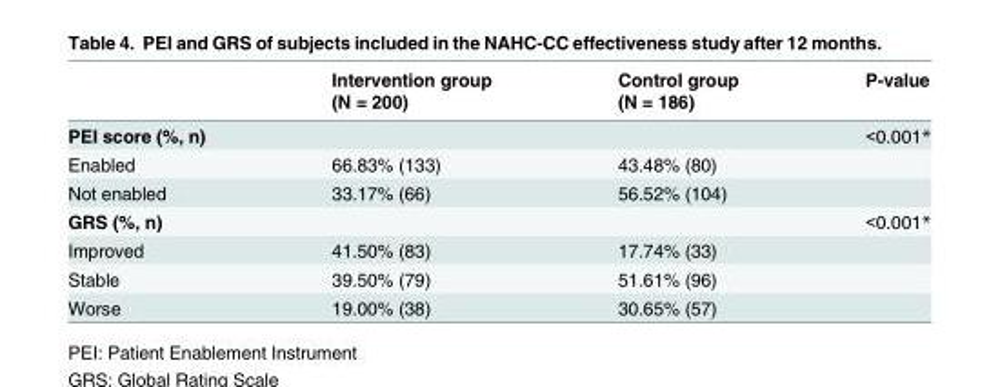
<table><thead><tr><td rowspan="2"></td><td rowspan="2">Intervention group (N = 200)</td><td rowspan="2">Control group (N = 186)</td><td rowspan="2">P-value</td></tr><tr></tr></thead><tbody><tr><td>PEI score (%, n)</td><td></td><td></td><td>&lt;0.001*</td></tr><tr><td>Enabled</td><td>66.83% (133)</td><td>43.48% (80)</td><td></td></tr><tr><td>Not enabled</td><td>33.17% (66)</td><td>56.52% (104)</td><td></td></tr><tr><td>GRS (%, n)</td><td></td><td></td><td>&lt;0.001*</td></tr><tr><td>Improved</td><td>41.50% (83)</td><td>17.74% (33)</td><td></td></tr><tr><td>Stable</td><td>39.50% (79)</td><td>51.61% (96)</td><td></td></tr><tr><td>Worse</td><td>19.00% (38)</td><td>30.65% (57)</td><td></td></tr></tbody></table>